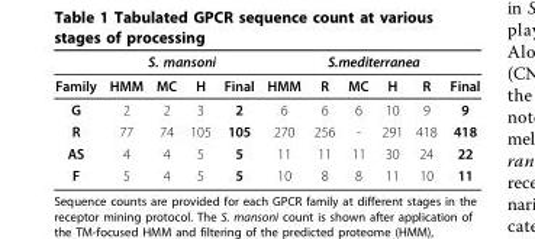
<table><thead><tr><td rowspan="2">Family</td><td colspan="4">S. mansoni</td><td colspan="6">S.mediterranea</td></tr><tr><td>HMM</td><td>MC</td><td>H</td><td>Final</td><td>HMM</td><td>R</td><td>MC</td><td>H</td><td>R</td><td>Final</td></tr></thead><tbody><tr><td>G</td><td>2</td><td>2</td><td>3</td><td>2</td><td>6</td><td>6</td><td>6</td><td>10</td><td>9</td><td>9</td></tr><tr><td>R</td><td>77</td><td>74</td><td>105</td><td>105</td><td>270</td><td>256</td><td>-</td><td>291</td><td>418</td><td>418</td></tr><tr><td>AS</td><td>4</td><td>4</td><td>5</td><td>5</td><td>11</td><td>11</td><td>11</td><td>30</td><td>24</td><td>22</td></tr><tr><td>F</td><td>5</td><td>4</td><td>5</td><td>5</td><td>10</td><td>8</td><td>8</td><td>11</td><td>10</td><td>11</td></tr></tbody></table>